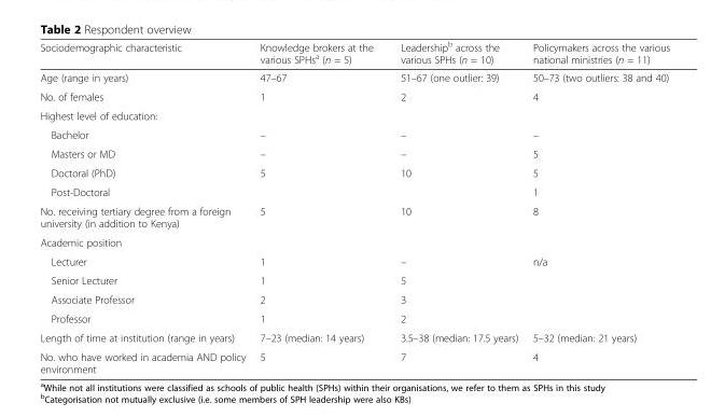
<table><thead><tr><td>Sociodemographic characteristic</td><td>Knowledge brokers at the various SPHs<sup>a</sup> (n = 5)</td><td>Leadership<sup>b</sup> across the various SPHs (n = 10)</td><td>Policymakers across the various national ministries (n = 11)</td></tr></thead><tbody><tr><td>Age (range in years)</td><td>47–67</td><td>51–67 (one outlier: 39)</td><td>50–73 (two outliers: 38 and 40)</td></tr><tr><td>No. of females</td><td>1</td><td>2</td><td>4</td></tr><tr><td colspan="4">Highest level of education:</td></tr><tr><td>Bachelor</td><td>–</td><td>–</td><td>–</td></tr><tr><td>Masters or MD</td><td>–</td><td>–</td><td>5</td></tr><tr><td>Doctoral (PhD)</td><td>5</td><td>10</td><td>5</td></tr><tr><td>Post-Doctoral</td><td></td><td></td><td>1</td></tr><tr><td>No. receiving tertiary degree from a foreign university (in addition to Kenya)</td><td>5</td><td>10</td><td>8</td></tr><tr><td colspan="4">Academic position</td></tr><tr><td>Lecturer</td><td>1</td><td>–</td><td>n/a</td></tr><tr><td>Senior Lecturer</td><td>1</td><td>5</td><td></td></tr><tr><td>Associate Professor</td><td>2</td><td>3</td><td></td></tr><tr><td>Professor</td><td>1</td><td>2</td><td></td></tr><tr><td>Length of time at institution (range in years)</td><td>7–23 (median: 14 years)</td><td>3.5–38 (median: 17.5 years)</td><td>5–32 (median: 21 years)</td></tr><tr><td>No. who have worked in academia AND policy environment</td><td>5</td><td>7</td><td>4</td></tr></tbody></table>